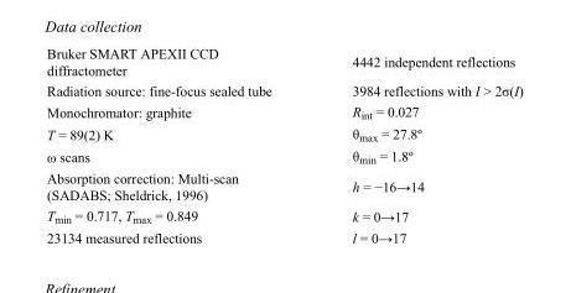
<table><tbody><tr><td>Bruker SMART APEXII CCD diffractometer</td><td>4442 independent reflections</td></tr><tr><td>Radiation source: fine-focus sealed tube</td><td>3984 reflections with I &gt; 2σ(I)</td></tr><tr><td>Monochromator: graphite</td><td>R<sub>int</sub> = 0.027</td></tr><tr><td>T = 89(2) K</td><td>θ<sub>max</sub> = 27.8º</td></tr><tr><td>ω scans</td><td>θ<sub>min</sub> = 1.8º</td></tr><tr><td>Absorption correction: Multi-scan (SADABS; Sheldrick, 1996)</td><td>h = −16→14</td></tr><tr><td>T<sub>min</sub> = 0.717, T<sub>max</sub> = 0.849</td><td>k = 0→17</td></tr><tr><td>23134 measured reflections</td><td>l = 0→17</td></tr></tbody></table>